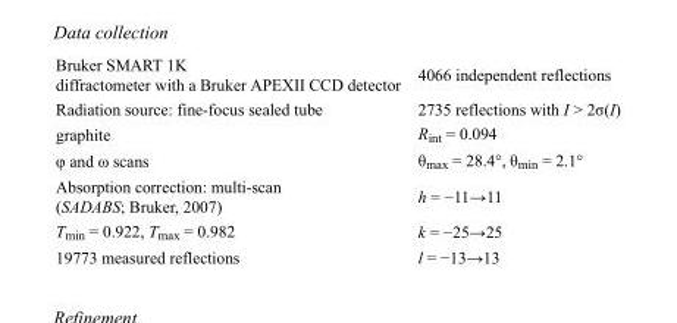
<table><tbody><tr><td>Bruker SMART 1K diffractometer with a Bruker APEXII CCD detector</td><td>4066 independent reflections</td></tr><tr><td>Radiation source: fine-focus sealed tube</td><td>2735 reflections with I &gt; 2σ(I)</td></tr><tr><td>graphite</td><td>R<sub>int</sub> = 0.094</td></tr><tr><td>φ and ω scans</td><td>θ<sub>max</sub> = 28.4°, θ<sub>min</sub> = 2.1°</td></tr><tr><td>Absorption correction: multi-scan (SADABS; Bruker, 2007)</td><td>h = −11→11</td></tr><tr><td>T<sub>min</sub> = 0.922, T<sub>max</sub> = 0.982</td><td>k = −25→25</td></tr><tr><td>19773 measured reflections</td><td>l = −13→13</td></tr></tbody></table>